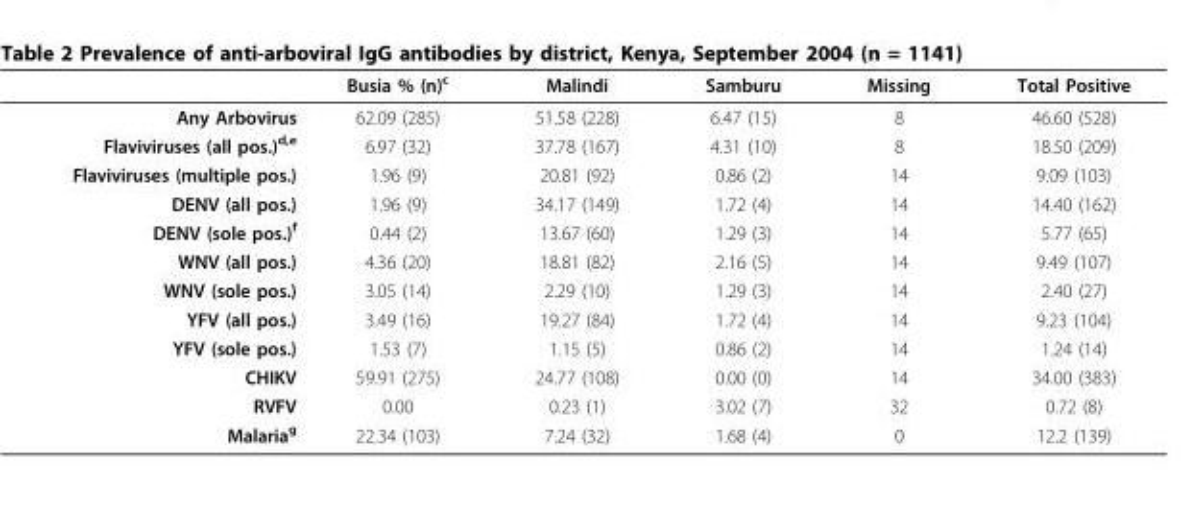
<table><thead><tr><td></td><td>Busia % (n)<sup>c</sup></td><td>Malindi</td><td>Samburu</td><td>Missing</td><td>Total Positive</td></tr></thead><tbody><tr><td>Any Arbovirus</td><td>62.09 (285)</td><td>51.58 (228)</td><td>6.47 (15)</td><td>8</td><td>46.60 (528)</td></tr><tr><td>Flaviviruses (all pos.)<sup>d,e</sup></td><td>6.97 (32)</td><td>37.78 (167)</td><td>4.31 (10)</td><td>8</td><td>18.50 (209)</td></tr><tr><td>Flaviviruses (multiple pos.)</td><td>1.96 (9)</td><td>20.81 (92)</td><td>0.86 (2)</td><td>14</td><td>9.09 (103)</td></tr><tr><td>DENV (all pos.)</td><td>1.96 (9)</td><td>34.17 (149)</td><td>1.72 (4)</td><td>14</td><td>14.40 (162)</td></tr><tr><td>DENV (sole pos.)<sup>f</sup></td><td>0.44 (2)</td><td>13.67 (60)</td><td>1.29 (3)</td><td>14</td><td>5.77 (65)</td></tr><tr><td>WNV (all pos.)</td><td>4.36 (20)</td><td>18.81 (82)</td><td>2.16 (5)</td><td>14</td><td>9.49 (107)</td></tr><tr><td>WNV (sole pos.)</td><td>3.05 (14)</td><td>2.29 (10)</td><td>1.29 (3)</td><td>14</td><td>2.40 (27)</td></tr><tr><td>YFV (all pos.)</td><td>3.49 (16)</td><td>19.27 (84)</td><td>1.72 (4)</td><td>14</td><td>9.23 (104)</td></tr><tr><td>YFV (sole pos.)</td><td>1.53 (7)</td><td>1.15 (5)</td><td>0.86 (2)</td><td>14</td><td>1.24 (14)</td></tr><tr><td>CHIKV</td><td>59.91 (275)</td><td>24.77 (108)</td><td>0.00 (0)</td><td>14</td><td>34.00 (383)</td></tr><tr><td>RVFV</td><td>0.00</td><td>0.23 (1)</td><td>3.02 (7)</td><td>32</td><td>0.72 (8)</td></tr><tr><td>Malaria<sup>g</sup></td><td>22.34 (103)</td><td>7.24 (32)</td><td>1.68 (4)</td><td>0</td><td>12.2 (139)</td></tr></tbody></table>